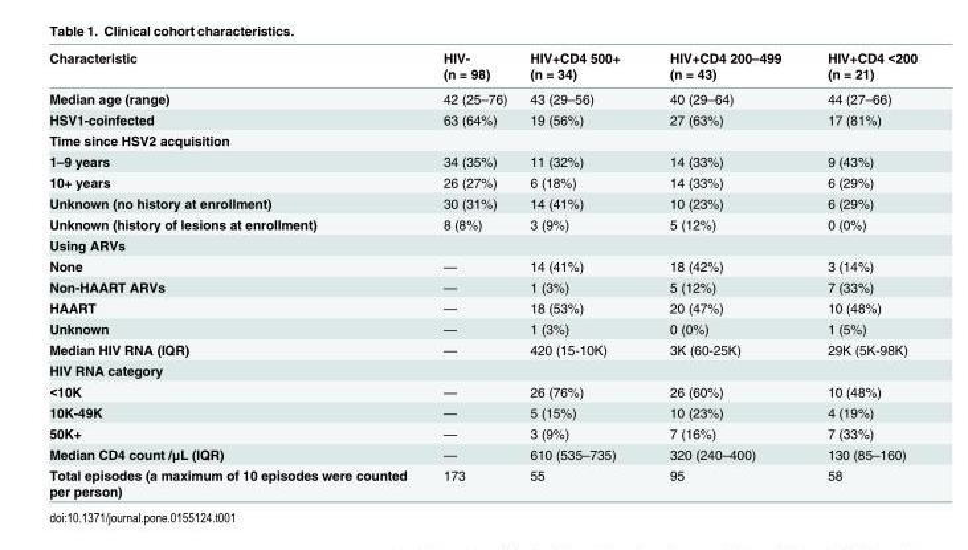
<table><thead><tr><td>Characteristic</td><td>HIV- (n = 98)</td><td>HIV+CD4 500+ (n = 34)</td><td>HIV+CD4 200–499 (n = 43)</td><td>HIV+CD4 &lt;200 (n = 21)</td></tr></thead><tbody><tr><td>Median age (range)</td><td>42 (25–76)</td><td>43 (29–56)</td><td>40 (29–64)</td><td>44 (27–66)</td></tr><tr><td>HSV1-coinfected</td><td>63 (64%)</td><td>19 (56%)</td><td>27 (63%)</td><td>17 (81%)</td></tr><tr><td colspan="5">Time since HSV2 acquisition</td></tr><tr><td>1–9 years</td><td>34 (35%)</td><td>11 (32%)</td><td>14 (33%)</td><td>9 (43%)</td></tr><tr><td>10+ years</td><td>26 (27%)</td><td>6 (18%)</td><td>14 (33%)</td><td>6 (29%)</td></tr><tr><td>Unknown (no history at enrollment)</td><td>30 (31%)</td><td>14 (41%)</td><td>10 (23%)</td><td>6 (29%)</td></tr><tr><td>Unknown (history of lesions at enrollment)</td><td>8 (8%)</td><td>3 (9%)</td><td>5 (12%)</td><td>0 (0%)</td></tr><tr><td colspan="5">Using ARVs</td></tr><tr><td>None</td><td>—</td><td>14 (41%)</td><td>18 (42%)</td><td>3 (14%)</td></tr><tr><td>Non-HAART ARVs</td><td>—</td><td>1 (3%)</td><td>5 (12%)</td><td>7 (33%)</td></tr><tr><td>HAART</td><td>—</td><td>18 (53%)</td><td>20 (47%)</td><td>10 (48%)</td></tr><tr><td>Unknown</td><td>—</td><td>1 (3%)</td><td>0 (0%)</td><td>1 (5%)</td></tr><tr><td>Median HIV RNA (IQR)</td><td>—</td><td>420 (15-10K)</td><td>3K (60-25K)</td><td>29K (5K-98K)</td></tr><tr><td colspan="5">HIV RNA category</td></tr><tr><td>&lt;10K</td><td>—</td><td>26 (76%)</td><td>26 (60%)</td><td>10 (48%)</td></tr><tr><td>10K-49K</td><td>—</td><td>5 (15%)</td><td>10 (23%)</td><td>4 (19%)</td></tr><tr><td>50K+</td><td>—</td><td>3 (9%)</td><td>7 (16%)</td><td>7 (33%)</td></tr><tr><td>Median CD4 count /μL (IQR)</td><td>—</td><td>610 (535–735)</td><td>320 (240–400)</td><td>130 (85–160)</td></tr><tr><td>Total episodes (a maximum of 10 episodes were counted per person)</td><td>173</td><td>55</td><td>95</td><td>58</td></tr></tbody></table>